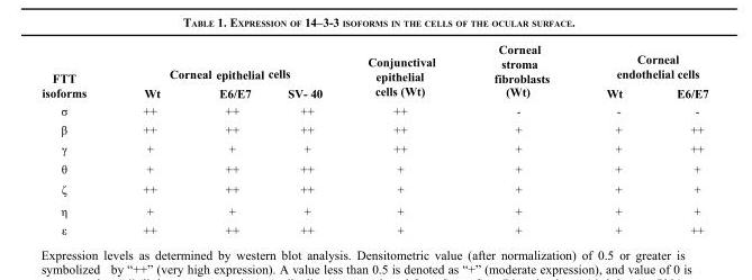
<table><thead><tr><td rowspan="2">FTT isoforms</td><td colspan="3">Corneal epithelial cells</td><td rowspan="2">Conjunctival epithelial cells (Wt)</td><td rowspan="2">Corneal stroma fibroblasts (Wt)</td><td colspan="2">Corneal endothelial cells</td></tr><tr><td>Wt</td><td>E6/E7</td><td>SV- 40</td><td>Wt</td><td>E6/E7</td></tr></thead><tbody><tr><td>σ</td><td>++</td><td>++</td><td>++</td><td>++</td><td>-</td><td>-</td><td>-</td></tr><tr><td>β</td><td>++</td><td>++</td><td>++</td><td>++</td><td>+</td><td>+</td><td>++</td></tr><tr><td>γ</td><td>+</td><td>+</td><td>+</td><td>++</td><td>+</td><td>+</td><td>++</td></tr><tr><td>θ</td><td>+</td><td>++</td><td>++</td><td>+</td><td>+</td><td>+</td><td>+</td></tr><tr><td>ζ</td><td>++</td><td>++</td><td>++</td><td>+</td><td>+</td><td>+</td><td>+</td></tr><tr><td>η</td><td>+</td><td>+</td><td>+</td><td>+</td><td>+</td><td>+</td><td>+</td></tr><tr><td>ε</td><td>++</td><td>++</td><td>++</td><td>+</td><td>+</td><td>+</td><td>++</td></tr></tbody></table>